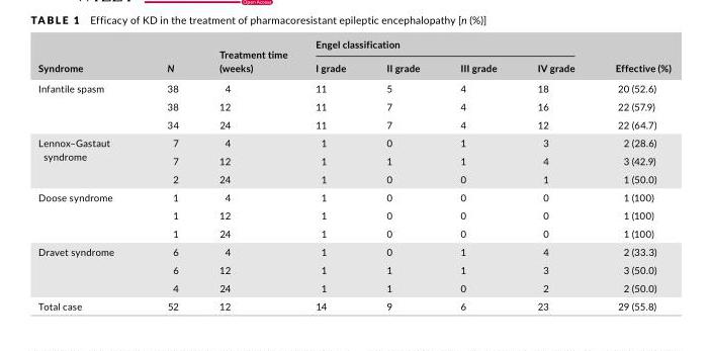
<table><thead><tr><td rowspan="2">Syndrome</td><td rowspan="2">N</td><td rowspan="2">Treatment time (weeks)</td><td colspan="4">Engel classification</td><td rowspan="2">Effective (%)</td></tr><tr><td>I grade</td><td>II grade</td><td>III grade</td><td>IV grade</td></tr></thead><tbody><tr><td rowspan="3">Infantile spasm</td><td>38</td><td>4</td><td>11</td><td>5</td><td>4</td><td>18</td><td>20 (52.6)</td></tr><tr><td>38</td><td>12</td><td>11</td><td>7</td><td>4</td><td>16</td><td>22 (57.9)</td></tr><tr><td>34</td><td>24</td><td>11</td><td>7</td><td>4</td><td>12</td><td>22 (64.7)</td></tr><tr><td rowspan="3">Lennox–Gastaut syndrome</td><td>7</td><td>4</td><td>1</td><td>0</td><td>1</td><td>3</td><td>2 (28.6)</td></tr><tr><td>7</td><td>12</td><td>1</td><td>1</td><td>1</td><td>4</td><td>3 (42.9)</td></tr><tr><td>2</td><td>24</td><td>1</td><td>0</td><td>0</td><td>1</td><td>1 (50.0)</td></tr><tr><td rowspan="3">Doose syndrome</td><td>1</td><td>4</td><td>1</td><td>0</td><td>0</td><td>0</td><td>1 (100)</td></tr><tr><td>1</td><td>12</td><td>1</td><td>0</td><td>0</td><td>0</td><td>1 (100)</td></tr><tr><td>1</td><td>24</td><td>1</td><td>0</td><td>0</td><td>0</td><td>1 (100)</td></tr><tr><td rowspan="3">Dravet syndrome</td><td>6</td><td>4</td><td>1</td><td>0</td><td>1</td><td>4</td><td>2 (33.3)</td></tr><tr><td>6</td><td>12</td><td>1</td><td>1</td><td>1</td><td>3</td><td>3 (50.0)</td></tr><tr><td>4</td><td>24</td><td>1</td><td>1</td><td>0</td><td>2</td><td>2 (50.0)</td></tr><tr><td>Total case</td><td>52</td><td>12</td><td>14</td><td>9</td><td>6</td><td>23</td><td>29 (55.8)</td></tr></tbody></table>